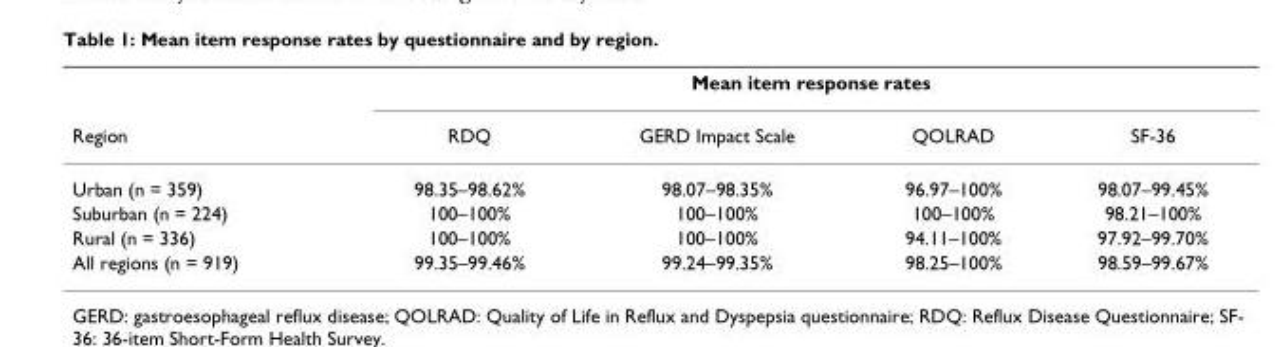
<table><thead><tr><td rowspan="2">Region</td><td colspan="4">Mean item response rates</td></tr><tr><td>RDQ</td><td>GERD Impact Scale</td><td>QOLRAD</td><td>SF-36</td></tr></thead><tbody><tr><td>Urban (n = 359)</td><td>98.35–98.62%</td><td>98.07–98.35%</td><td>96.97–100%</td><td>98.07–99.45%</td></tr><tr><td>Suburban (n = 224)</td><td>100–100%</td><td>100–100%</td><td>100–100%</td><td>98.21–100%</td></tr><tr><td>Rural (n = 336)</td><td>100–100%</td><td>100–100%</td><td>94.11–100%</td><td>97.92–99.70%</td></tr><tr><td>All regions (n = 919)</td><td>99.35–99.46%</td><td>99.24–99.35%</td><td>98.25–100%</td><td>98.59–99.67%</td></tr></tbody></table>